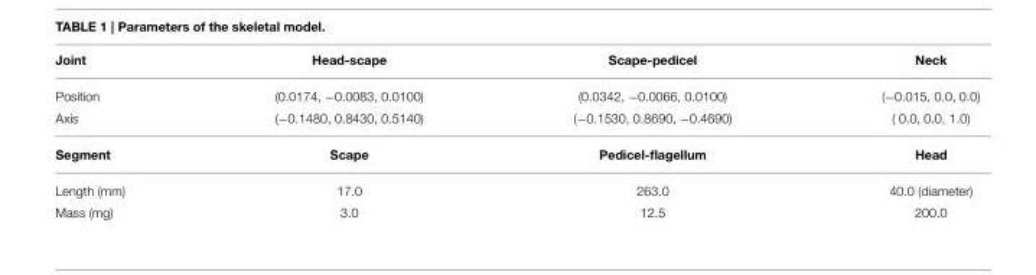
<table><thead><tr><td>Joint</td><td>Head-scape</td><td>Scape-pedicel</td><td>Neck</td></tr></thead><tbody><tr><td>Position</td><td>(0.0174, −0.0083, 0.0100)</td><td>(0.0342, −0.0066, 0.0100)</td><td>(−0.015, 0.0, 0.0)</td></tr><tr><td>Axis</td><td>(−0.1480, 0.8430, 0.5140)</td><td>(−0.1530, 0.8690, −0.4690)</td><td>( 0.0, 0.0, 1.0)</td></tr><tr><td>Segment</td><td>Scape</td><td>Pedicel-flagellum</td><td>Head</td></tr><tr><td>Length (mm)</td><td>17.0</td><td>263.0</td><td>40.0 (diameter)</td></tr><tr><td>Mass (mg)</td><td>3.0</td><td>12.5</td><td>200.0</td></tr></tbody></table>